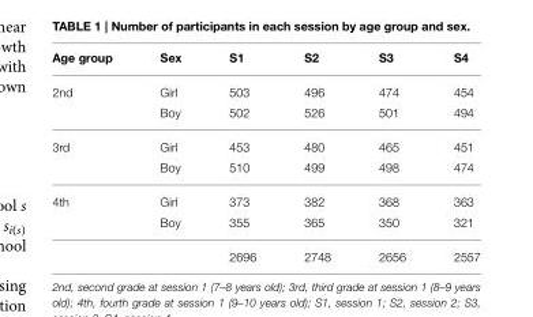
<table><thead><tr><td>Age group</td><td>Sex</td><td>S1</td><td>S2</td><td>S3</td><td>S4</td></tr></thead><tbody><tr><td rowspan="2">2nd</td><td>Girl</td><td>503</td><td>496</td><td>474</td><td>454</td></tr><tr><td>Boy</td><td>502</td><td>526</td><td>501</td><td>494</td></tr><tr><td rowspan="2">3rd</td><td>Girl</td><td>453</td><td>480</td><td>465</td><td>451</td></tr><tr><td>Boy</td><td>510</td><td>499</td><td>498</td><td>474</td></tr><tr><td rowspan="3">4th</td><td>Girl</td><td>373</td><td>382</td><td>368</td><td>363</td></tr><tr><td>Boy</td><td>355</td><td>365</td><td>350</td><td>321</td></tr><tr><td></td><td>2696</td><td>2748</td><td>2656</td><td>2557</td></tr></tbody></table>